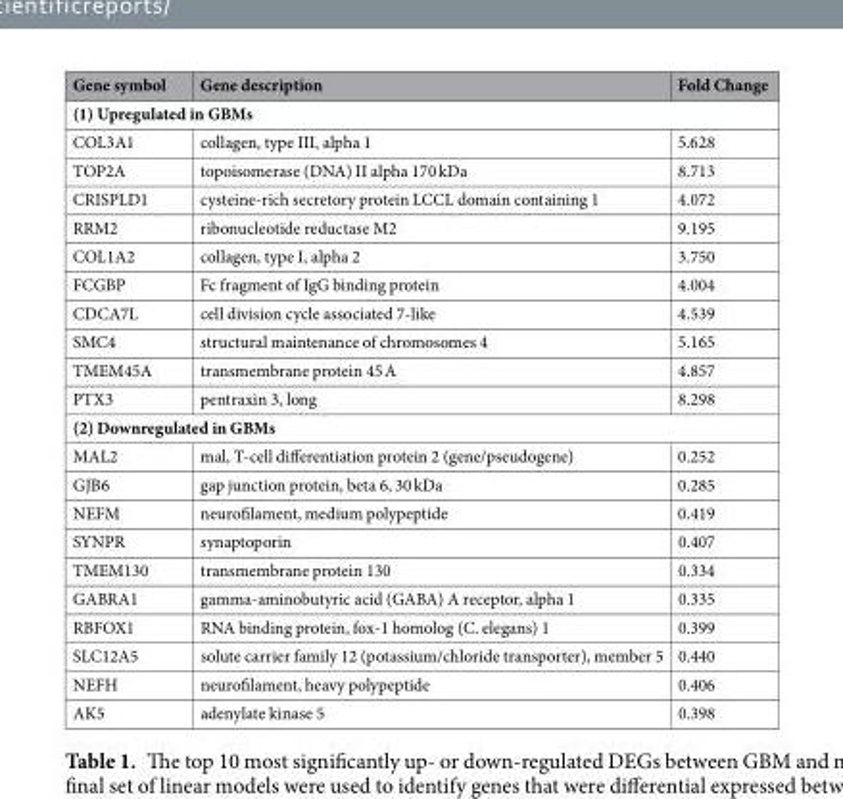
<table><thead><tr><td>Gene symbol</td><td>Gene description</td><td>Fold Change</td></tr></thead><tbody><tr><td colspan="3">(1) Upregulated in GBMs</td></tr><tr><td>COL3A1</td><td>collagen, type III, alpha 1</td><td>5.628</td></tr><tr><td>TOP2A</td><td>topoisomerase (DNA) II alpha 170 kDa</td><td>8.713</td></tr><tr><td>CRISPLD1</td><td>cysteine-rich secretory protein LCCL domain containing 1</td><td>4.072</td></tr><tr><td>RRM2</td><td>ribonucleotide reductase M2</td><td>9.195</td></tr><tr><td>COL1A2</td><td>collagen, type I, alpha 2</td><td>3.750</td></tr><tr><td>FCGBP</td><td>Fc fragment of IgG binding protein</td><td>4.004</td></tr><tr><td>CDCA7L</td><td>cell division cycle associated 7-like</td><td>4.539</td></tr><tr><td>SMC4</td><td>structural maintenance of chromosomes 4</td><td>5.165</td></tr><tr><td>TMEM45A</td><td>transmembrane protein 45 A</td><td>4.857</td></tr><tr><td>PTX3</td><td>pentraxin 3, long</td><td>8.298</td></tr><tr><td colspan="3">(2) Downregulated in GBMs</td></tr><tr><td>MAL2</td><td>mal, T-cell differentiation protein 2 (gene/pseudogene)</td><td>0.252</td></tr><tr><td>GJB6</td><td>gap junction protein, beta 6, 30 kDa</td><td>0.285</td></tr><tr><td>NEFM</td><td>neurofilament, medium polypeptide</td><td>0.419</td></tr><tr><td>SYNPR</td><td>synaptoporin</td><td>0.407</td></tr><tr><td>TMEM130</td><td>transmembrane protein 130</td><td>0.334</td></tr><tr><td>GABRA1</td><td>gamma-aminobutyric acid (GABA) A receptor, alpha 1</td><td>0.335</td></tr><tr><td>RBFOX1</td><td>RNA binding protein, fox-1 homolog (C. elegans) 1</td><td>0.399</td></tr><tr><td>SLC12A5</td><td>solute carrier family 12 (potassium/chloride transporter), member 5</td><td>0.440</td></tr><tr><td>NEFH</td><td>neurofilament, heavy polypeptide</td><td>0.406</td></tr><tr><td>AK5</td><td>adenylate kinase 5</td><td>0.398</td></tr></tbody></table>